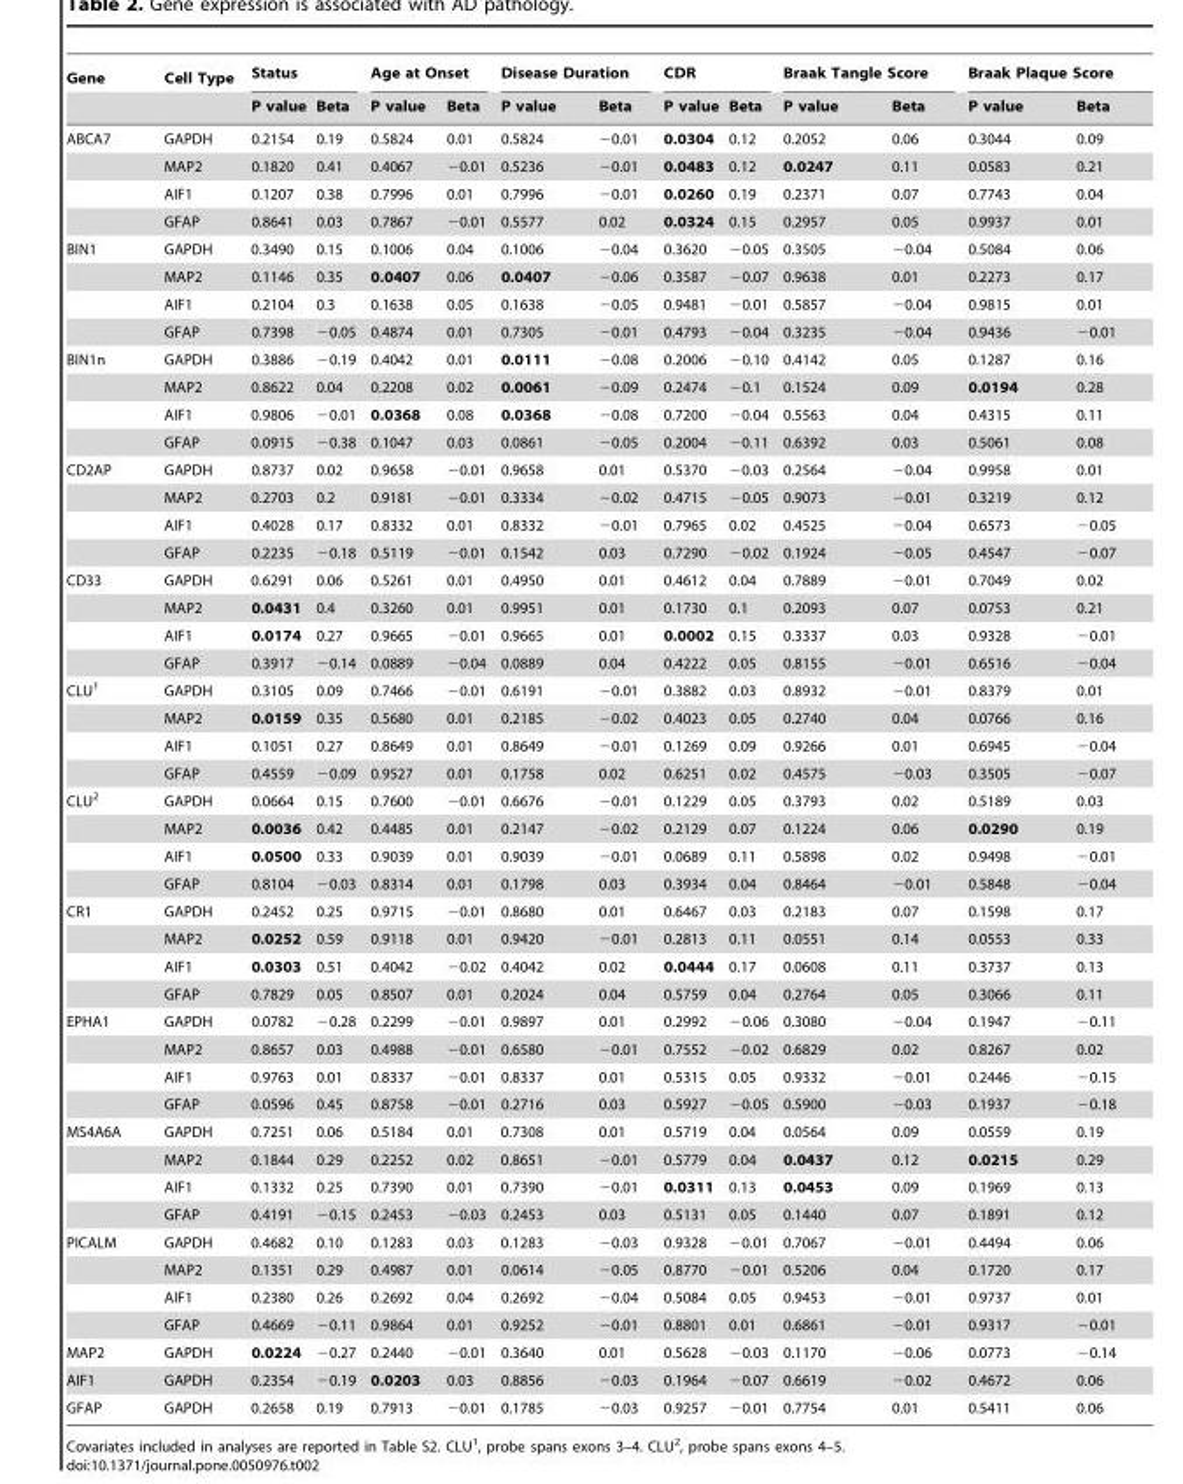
<table><thead><tr><td rowspan="2">Gene</td><td rowspan="2">Cell Type</td><td colspan="2">Status</td><td colspan="2">Age at Onset</td><td colspan="2">Disease Duration</td><td colspan="2">CDR</td><td colspan="2">Braak Tangle Score</td><td colspan="2">Braak Plaque Score</td></tr><tr><td>P value</td><td>Beta</td><td>P value</td><td>Beta</td><td>P value</td><td>Beta</td><td>P value</td><td>Beta</td><td>P value</td><td>Beta</td><td>P value</td><td>Beta</td></tr></thead><tbody><tr><td rowspan="4">ABCA7</td><td>GAPDH</td><td>0.2154</td><td>0.19</td><td>0.5824</td><td>0.01</td><td>0.5824</td><td>−0.01</td><td>0.0304</td><td>0.12</td><td>0.2052</td><td>0.06</td><td>0.3044</td><td>0.09</td></tr><tr><td>MAP2</td><td>0.1820</td><td>0.41</td><td>0.4067</td><td>−0.01</td><td>0.5236</td><td>−0.01</td><td>0.0483</td><td>0.12</td><td>0.0247</td><td>0.11</td><td>0.0583</td><td>0.21</td></tr><tr><td>AIF1</td><td>0.1207</td><td>0.38</td><td>0.7996</td><td>0.01</td><td>0.7996</td><td>−0.01</td><td>0.0260</td><td>0.19</td><td>0.2371</td><td>0.07</td><td>0.7743</td><td>0.04</td></tr><tr><td>GFAP</td><td>0.8641</td><td>0.03</td><td>0.7867</td><td>−0.01</td><td>0.5577</td><td>0.02</td><td>0.0324</td><td>0.15</td><td>0.2957</td><td>0.05</td><td>0.9937</td><td>0.01</td></tr><tr><td rowspan="4">BIN1</td><td>GAPDH</td><td>0.3490</td><td>0.15</td><td>0.1006</td><td>0.04</td><td>0.1006</td><td>−0.04</td><td>0.3620</td><td>−0.05</td><td>0.3505</td><td>−0.04</td><td>0.5084</td><td>0.06</td></tr><tr><td>MAP2</td><td>0.1146</td><td>0.35</td><td>0.0407</td><td>0.06</td><td>0.0407</td><td>−0.06</td><td>0.3587</td><td>−0.07</td><td>0.9638</td><td>0.01</td><td>0.2273</td><td>0.17</td></tr><tr><td>AIF1</td><td>0.2104</td><td>0.3</td><td>0.1638</td><td>0.05</td><td>0.1638</td><td>−0.05</td><td>0.9481</td><td>−0.01</td><td>0.5857</td><td>−0.04</td><td>0.9815</td><td>0.01</td></tr><tr><td>GFAP</td><td>0.7398</td><td>−0.05</td><td>0.4874</td><td>0.01</td><td>0.7305</td><td>−0.01</td><td>0.4793</td><td>−0.04</td><td>0.3235</td><td>−0.04</td><td>0.9436</td><td>−0.01</td></tr><tr><td rowspan="4">BIN1n</td><td>GAPDH</td><td>0.3886</td><td>−0.19</td><td>0.4042</td><td>0.01</td><td>0.0111</td><td>−0.08</td><td>0.2006</td><td>−0.10</td><td>0.4142</td><td>0.05</td><td>0.1287</td><td>0.16</td></tr><tr><td>MAP2</td><td>0.8622</td><td>0.04</td><td>0.2208</td><td>0.02</td><td>0.0061</td><td>−0.09</td><td>0.2474</td><td>−0.1</td><td>0.1524</td><td>0.09</td><td>0.0194</td><td>0.28</td></tr><tr><td>AIF1</td><td>0.9806</td><td>−0.01</td><td>0.0368</td><td>0.08</td><td>0.0368</td><td>−0.08</td><td>0.7200</td><td>−0.04</td><td>0.5563</td><td>0.04</td><td>0.4315</td><td>0.11</td></tr><tr><td>GFAP</td><td>0.0915</td><td>−0.38</td><td>0.1047</td><td>0.03</td><td>0.0861</td><td>−0.05</td><td>0.2004</td><td>−0.11</td><td>0.6392</td><td>0.03</td><td>0.5061</td><td>0.08</td></tr><tr><td rowspan="4">CD2AP</td><td>GAPDH</td><td>0.8737</td><td>0.02</td><td>0.9658</td><td>−0.01</td><td>0.9658</td><td>0.01</td><td>0.5370</td><td>−0.03</td><td>0.2564</td><td>−0.04</td><td>0.9958</td><td>0.01</td></tr><tr><td>MAP2</td><td>0.2703</td><td>0.2</td><td>0.9181</td><td>−0.01</td><td>0.3334</td><td>−0.02</td><td>0.4715</td><td>−0.05</td><td>0.9073</td><td>−0.01</td><td>0.3219</td><td>0.12</td></tr><tr><td>AIF1</td><td>0.4028</td><td>0.17</td><td>0.8332</td><td>0.01</td><td>0.8332</td><td>−0.01</td><td>0.7965</td><td>0.02</td><td>0.4525</td><td>−0.04</td><td>0.6573</td><td>−0.05</td></tr><tr><td>GFAP</td><td>0.2235</td><td>−0.18</td><td>0.5119</td><td>−0.01</td><td>0.1542</td><td>0.03</td><td>0.7290</td><td>−0.02</td><td>0.1924</td><td>−0.05</td><td>0.4547</td><td>−0.07</td></tr><tr><td rowspan="4">CD33</td><td>GAPDH</td><td>0.6291</td><td>0.06</td><td>0.5261</td><td>0.01</td><td>0.4950</td><td>0.01</td><td>0.4612</td><td>0.04</td><td>0.7889</td><td>−0.01</td><td>0.7049</td><td>0.02</td></tr><tr><td>MAP2</td><td>0.0431</td><td>0.4</td><td>0.3260</td><td>0.01</td><td>0.9951</td><td>0.01</td><td>0.1730</td><td>0.1</td><td>0.2093</td><td>0.07</td><td>0.0753</td><td>0.21</td></tr><tr><td>AIF1</td><td>0.0174</td><td>0.27</td><td>0.9665</td><td>−0.01</td><td>0.9665</td><td>0.01</td><td>0.0002</td><td>0.15</td><td>0.3337</td><td>0.03</td><td>0.9328</td><td>−0.01</td></tr><tr><td>GFAP</td><td>0.3917</td><td>−0.14</td><td>0.0889</td><td>−0.04</td><td>0.0889</td><td>0.04</td><td>0.4222</td><td>0.05</td><td>0.8155</td><td>−0.01</td><td>0.6516</td><td>−0.04</td></tr><tr><td rowspan="4">CLU<sup>1</sup></td><td>GAPDH</td><td>0.3105</td><td>0.09</td><td>0.7466</td><td>−0.01</td><td>0.6191</td><td>−0.01</td><td>0.3882</td><td>0.03</td><td>0.8932</td><td>−0.01</td><td>0.8379</td><td>0.01</td></tr><tr><td>MAP2</td><td>0.0159</td><td>0.35</td><td>0.5680</td><td>0.01</td><td>0.2185</td><td>−0.02</td><td>0.4023</td><td>0.05</td><td>0.2740</td><td>0.04</td><td>0.0766</td><td>0.16</td></tr><tr><td>AIF1</td><td>0.1051</td><td>0.27</td><td>0.8649</td><td>0.01</td><td>0.8649</td><td>−0.01</td><td>0.1269</td><td>0.09</td><td>0.9266</td><td>0.01</td><td>0.6945</td><td>−0.04</td></tr><tr><td>GFAP</td><td>0.4559</td><td>−0.09</td><td>0.9527</td><td>0.01</td><td>0.1758</td><td>0.02</td><td>0.6251</td><td>0.02</td><td>0.4575</td><td>−0.03</td><td>0.3505</td><td>−0.07</td></tr><tr><td rowspan="4">CLU<sup>2</sup></td><td>GAPDH</td><td>0.0664</td><td>0.15</td><td>0.7600</td><td>−0.01</td><td>0.6676</td><td>−0.01</td><td>0.1229</td><td>0.05</td><td>0.3793</td><td>0.02</td><td>0.5189</td><td>0.03</td></tr><tr><td>MAP2</td><td>0.0036</td><td>0.42</td><td>0.4485</td><td>0.01</td><td>0.2147</td><td>−0.02</td><td>0.2129</td><td>0.07</td><td>0.1224</td><td>0.06</td><td>0.0290</td><td>0.19</td></tr><tr><td>AIF1</td><td>0.0500</td><td>0.33</td><td>0.9039</td><td>0.01</td><td>0.9039</td><td>−0.01</td><td>0.0689</td><td>0.11</td><td>0.5898</td><td>0.02</td><td>0.9498</td><td>−0.01</td></tr><tr><td>GFAP</td><td>0.8104</td><td>−0.03</td><td>0.8314</td><td>0.01</td><td>0.1798</td><td>0.03</td><td>0.3934</td><td>0.04</td><td>0.8464</td><td>−0.01</td><td>0.5848</td><td>−0.04</td></tr><tr><td rowspan="4">CR1</td><td>GAPDH</td><td>0.2452</td><td>0.25</td><td>0.9715</td><td>−0.01</td><td>0.8680</td><td>0.01</td><td>0.6467</td><td>0.03</td><td>0.2183</td><td>0.07</td><td>0.1598</td><td>0.17</td></tr><tr><td>MAP2</td><td>0.0252</td><td>0.59</td><td>0.9118</td><td>0.01</td><td>0.9420</td><td>−0.01</td><td>0.2813</td><td>0.11</td><td>0.0551</td><td>0.14</td><td>0.0553</td><td>0.33</td></tr><tr><td>AIF1</td><td>0.0303</td><td>0.51</td><td>0.4042</td><td>−0.02</td><td>0.4042</td><td>0.02</td><td>0.0444</td><td>0.17</td><td>0.0608</td><td>0.11</td><td>0.3737</td><td>0.13</td></tr><tr><td>GFAP</td><td>0.7829</td><td>0.05</td><td>0.8507</td><td>0.01</td><td>0.2024</td><td>0.04</td><td>0.5759</td><td>0.04</td><td>0.2764</td><td>0.05</td><td>0.3066</td><td>0.11</td></tr><tr><td rowspan="4">EPHA1</td><td>GAPDH</td><td>0.0782</td><td>−0.28</td><td>0.2299</td><td>−0.01</td><td>0.9897</td><td>0.01</td><td>0.2992</td><td>−0.06</td><td>0.3080</td><td>−0.04</td><td>0.1947</td><td>−0.11</td></tr><tr><td>MAP2</td><td>0.8657</td><td>0.03</td><td>0.4988</td><td>−0.01</td><td>0.6580</td><td>−0.01</td><td>0.7552</td><td>−0.02</td><td>0.6829</td><td>0.02</td><td>0.8267</td><td>0.02</td></tr><tr><td>AIF1</td><td>0.9763</td><td>0.01</td><td>0.8337</td><td>−0.01</td><td>0.8337</td><td>0.01</td><td>0.5315</td><td>0.05</td><td>0.9332</td><td>−0.01</td><td>0.2446</td><td>−0.15</td></tr><tr><td>GFAP</td><td>0.0596</td><td>0.45</td><td>0.8758</td><td>−0.01</td><td>0.2716</td><td>0.03</td><td>0.5927</td><td>−0.05</td><td>0.5900</td><td>−0.03</td><td>0.1937</td><td>−0.18</td></tr><tr><td rowspan="4">MS4A6A</td><td>GAPDH</td><td>0.7251</td><td>0.06</td><td>0.5184</td><td>0.01</td><td>0.7308</td><td>0.01</td><td>0.5719</td><td>0.04</td><td>0.0564</td><td>0.09</td><td>0.0559</td><td>0.19</td></tr><tr><td>MAP2</td><td>0.1844</td><td>0.29</td><td>0.2252</td><td>0.02</td><td>0.8651</td><td>−0.01</td><td>0.5779</td><td>0.04</td><td>0.0437</td><td>0.12</td><td>0.0215</td><td>0.29</td></tr><tr><td>AIF1</td><td>0.1332</td><td>0.25</td><td>0.7390</td><td>0.01</td><td>0.7390</td><td>−0.01</td><td>0.0311</td><td>0.13</td><td>0.0453</td><td>0.09</td><td>0.1969</td><td>0.13</td></tr><tr><td>GFAP</td><td>0.4191</td><td>−0.15</td><td>0.2453</td><td>−0.03</td><td>0.2453</td><td>0.03</td><td>0.5131</td><td>0.05</td><td>0.1440</td><td>0.07</td><td>0.1891</td><td>0.12</td></tr><tr><td rowspan="4">PICALM</td><td>GAPDH</td><td>0.4682</td><td>0.10</td><td>0.1283</td><td>0.03</td><td>0.1283</td><td>−0.03</td><td>0.9328</td><td>−0.01</td><td>0.7067</td><td>−0.01</td><td>0.4494</td><td>0.06</td></tr><tr><td>MAP2</td><td>0.1351</td><td>0.29</td><td>0.4987</td><td>0.01</td><td>0.0614</td><td>−0.05</td><td>0.8770</td><td>−0.01</td><td>0.5206</td><td>0.04</td><td>0.1720</td><td>0.17</td></tr><tr><td>AIF1</td><td>0.2380</td><td>0.26</td><td>0.2692</td><td>0.04</td><td>0.2692</td><td>−0.04</td><td>0.5084</td><td>0.05</td><td>0.9453</td><td>−0.01</td><td>0.9737</td><td>0.01</td></tr><tr><td>GFAP</td><td>0.4669</td><td>−0.11</td><td>0.9864</td><td>0.01</td><td>0.9252</td><td>−0.01</td><td>0.8801</td><td>0.01</td><td>0.6861</td><td>−0.01</td><td>0.9317</td><td>−0.01</td></tr><tr><td>MAP2</td><td>GAPDH</td><td>0.0224</td><td>−0.27</td><td>0.2440</td><td>−0.01</td><td>0.3640</td><td>0.01</td><td>0.5628</td><td>−0.03</td><td>0.1170</td><td>−0.06</td><td>0.0773</td><td>−0.14</td></tr><tr><td>AIF1</td><td>GAPDH</td><td>0.2354</td><td>−0.19</td><td>0.0203</td><td>0.03</td><td>0.8856</td><td>−0.03</td><td>0.1964</td><td>−0.07</td><td>0.6619</td><td>−0.02</td><td>0.4672</td><td>0.06</td></tr><tr><td>GFAP</td><td>GAPDH</td><td>0.2658</td><td>0.19</td><td>0.7913</td><td>−0.01</td><td>0.1785</td><td>−0.03</td><td>0.9257</td><td>−0.01</td><td>0.7754</td><td>0.01</td><td>0.5411</td><td>0.06</td></tr></tbody></table>